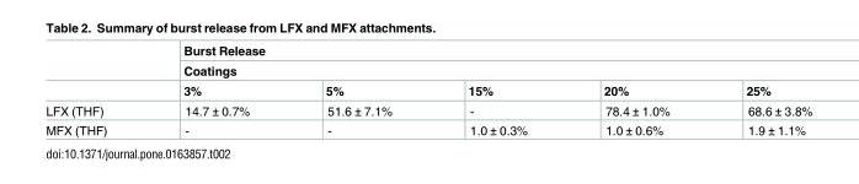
<table><thead><tr><td rowspan="3"></td><td rowspan="2" colspan="5">Burst Release Coatings</td></tr><tr></tr><tr><td>3%</td><td>5%</td><td>15%</td><td>20%</td><td>25%</td></tr></thead><tbody><tr><td>LFX (THF)</td><td>14.7 ± 0.7%</td><td>51.6 ± 7.1%</td><td>-</td><td>78.4 ± 1.0%</td><td>68.6 ± 3.8%</td></tr><tr><td>MFX (THF)</td><td>-</td><td>-</td><td>1.0 ± 0.3%</td><td>1.0 ± 0.6%</td><td>1.9 ± 1.1%</td></tr></tbody></table>